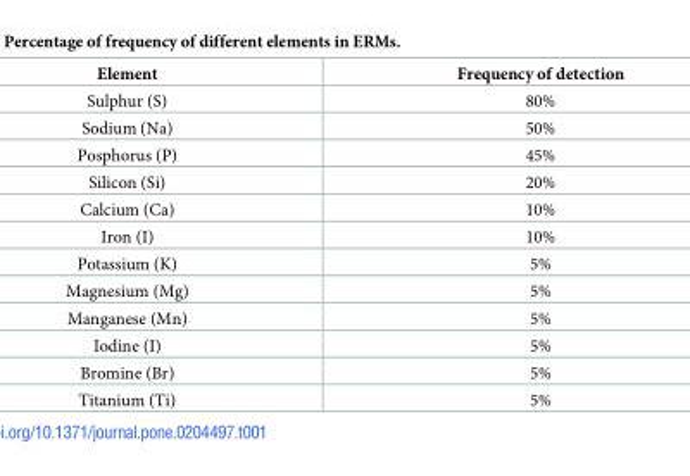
<table><thead><tr><td>Element</td><td>Frequency of detection</td></tr></thead><tbody><tr><td>Sulphur (S)</td><td>80%</td></tr><tr><td>Sodium (Na)</td><td>50%</td></tr><tr><td>Posphorus (P)</td><td>45%</td></tr><tr><td>Silicon (Si)</td><td>20%</td></tr><tr><td>Calcium (Ca)</td><td>10%</td></tr><tr><td>Iron (I)</td><td>10%</td></tr><tr><td>Potassium (K)</td><td>5%</td></tr><tr><td>Magnesium (Mg)</td><td>5%</td></tr><tr><td>Manganese (Mn)</td><td>5%</td></tr><tr><td>Iodine (I)</td><td>5%</td></tr><tr><td>Bromine (Br)</td><td>5%</td></tr><tr><td>Titanium (Ti)</td><td>5%</td></tr></tbody></table>